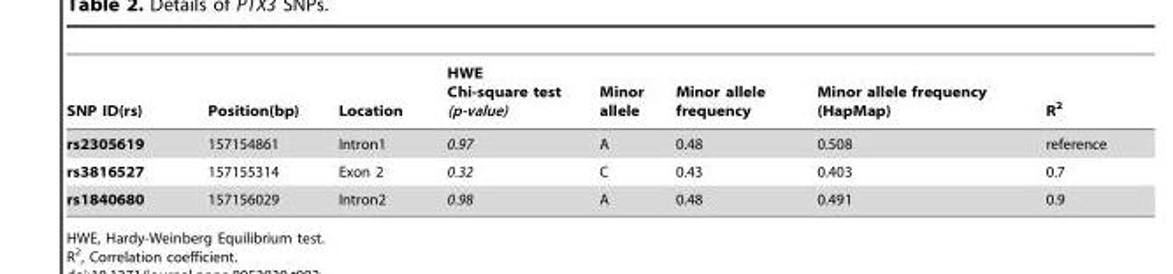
<table><thead><tr><td>SNP ID(rs)</td><td>Position(bp)</td><td>Location</td><td>HWE Chi-square test (p-value)</td><td>Minor allele</td><td>Minor allele frequency</td><td>Minor allele frequency (HapMap)</td><td>R<sup>2</sup></td></tr></thead><tbody><tr><td>rs2305619</td><td>157154861</td><td>Intron1</td><td>0.97</td><td>A</td><td>0.48</td><td>0.508</td><td>reference</td></tr><tr><td>rs3816527</td><td>157155314</td><td>Exon 2</td><td>0.32</td><td>C</td><td>0.43</td><td>0.403</td><td>0.7</td></tr><tr><td>rs1840680</td><td>157156029</td><td>Intron2</td><td>0.98</td><td>A</td><td>0.48</td><td>0.491</td><td>0.9</td></tr></tbody></table>